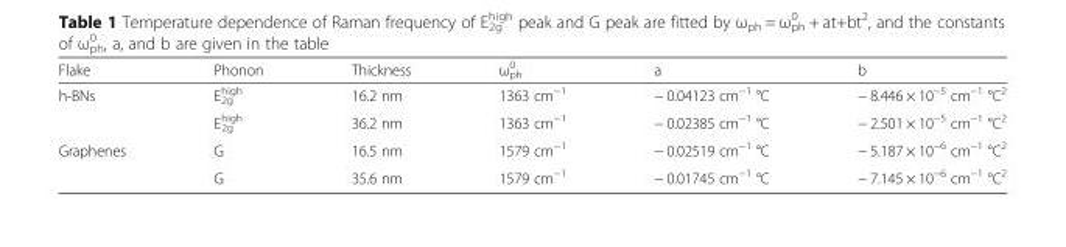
<table><thead><tr><td>Flake</td><td>Phonon</td><td>Thickness</td><td>ω<sub>ph</sub> <sup>0</sup></td><td>a</td><td>b</td></tr></thead><tbody><tr><td rowspan="2">h-BNs</td><td>E<sub>2g</sub> <sup>high</sup></td><td>16.2 nm</td><td>1363 cm<sup>−1</sup></td><td>− 0.04123 cm<sup>−1</sup> °C</td><td>− 8.446 × 10<sup>−5</sup> cm<sup>−1</sup> °C<sup>2</sup></td></tr><tr><td>E<sub>2g</sub> <sup>high</sup></td><td>36.2 nm</td><td>1363 cm<sup>−1</sup></td><td>− 0.02385 cm<sup>−1</sup> °C</td><td>− 2.501 × 10<sup>−5</sup> cm<sup>−1</sup> °C<sup>2</sup></td></tr><tr><td rowspan="2">Graphenes</td><td>G</td><td>16.5 nm</td><td>1579 cm<sup>−1</sup></td><td>− 0.02519 cm<sup>−1</sup> °C</td><td>− 5.187 × 10<sup>−6</sup> cm<sup>−1</sup> °C<sup>2</sup></td></tr><tr><td>G</td><td>35.6 nm</td><td>1579 cm<sup>−1</sup></td><td>− 0.01745 cm<sup>−1</sup> °C</td><td>− 7.145 × 10<sup>−6</sup> cm<sup>−1</sup> °C<sup>2</sup></td></tr></tbody></table>